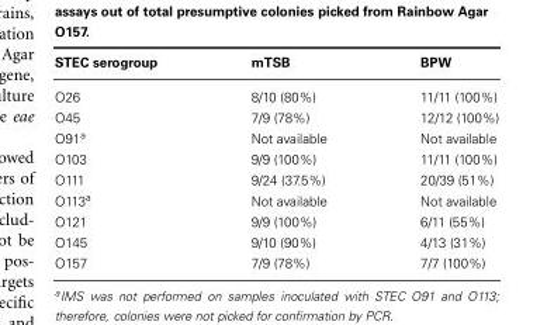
<table><thead><tr><td>STEC serogroup</td><td>mTSB</td><td>BPW</td></tr></thead><tbody><tr><td>O26</td><td>8/10 (80%)</td><td>11/11 (100%)</td></tr><tr><td>O45</td><td>7/9 (78%)</td><td>12/12 (100%)</td></tr><tr><td>O91<sup>a</sup></td><td>Not available</td><td>Not available</td></tr><tr><td>O103</td><td>9/9 (100%)</td><td>11/11 (100%)</td></tr><tr><td>O111</td><td>9/24 (37.5%)</td><td>20/39 (51%)</td></tr><tr><td>O113<sup>a</sup></td><td>Not available</td><td>Not available</td></tr><tr><td>O121</td><td>9/9 (100%)</td><td>6/11 (55%)</td></tr><tr><td>O145</td><td>9/10 (90%)</td><td>4/13 (31%)</td></tr><tr><td>O157</td><td>7/9 (78%)</td><td>7/7 (100%)</td></tr></tbody></table>